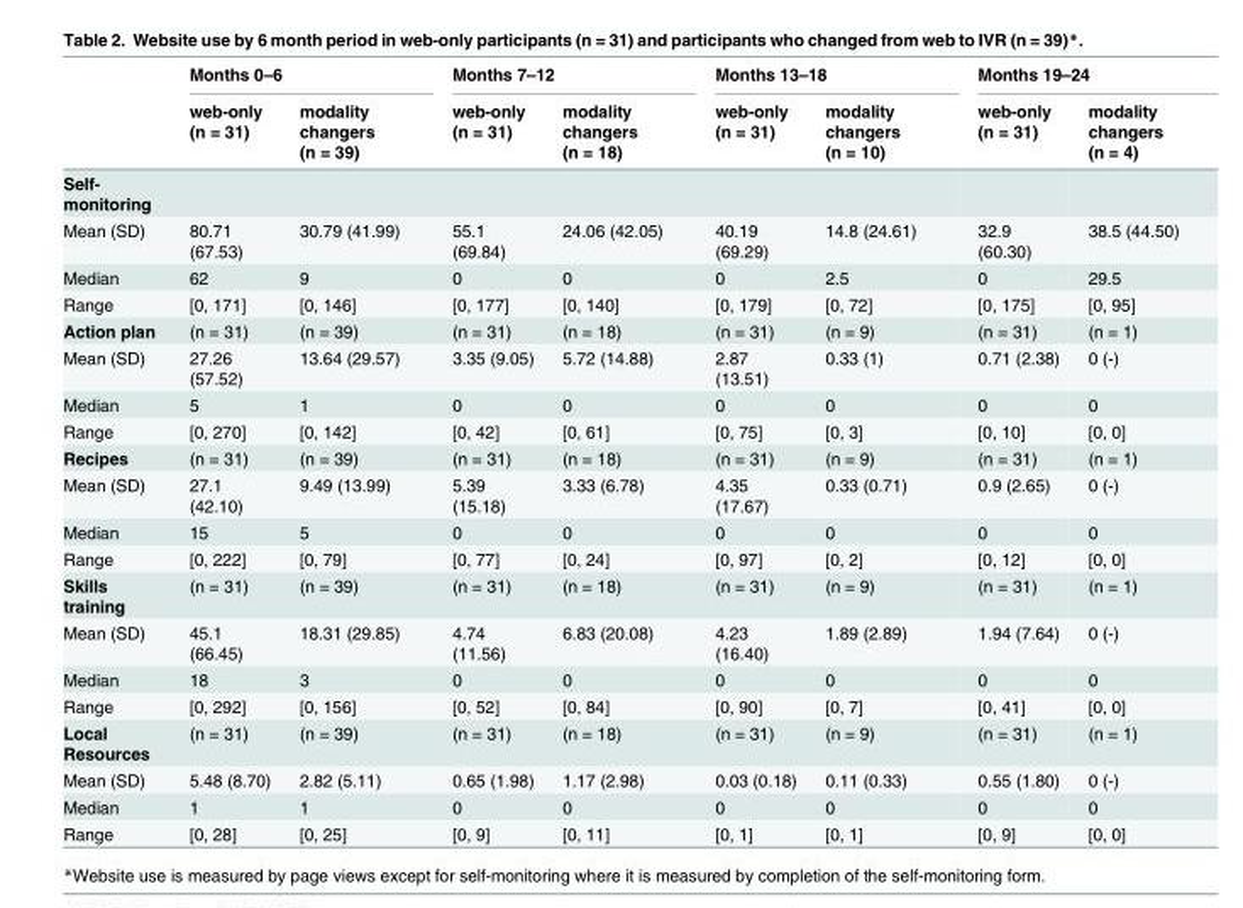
<table><thead><tr><td rowspan="2"></td><td colspan="2">Months 0–6</td><td colspan="2">Months 7–12</td><td colspan="2">Months 13–18</td><td colspan="2">Months 19–24</td></tr><tr><td>web-only (n = 31)</td><td>modality changers (n = 39)</td><td>web-only (n = 31)</td><td>modality changers (n = 18)</td><td>web-only (n = 31)</td><td>modality changers (n = 10)</td><td>web-only (n = 31)</td><td>modality changers (n = 4)</td></tr></thead><tbody><tr><td colspan="9">Self- monitoring</td></tr><tr><td>Mean (SD)</td><td>80.71 (67.53)</td><td>30.79 (41.99)</td><td>55.1 (69.84)</td><td>24.06 (42.05)</td><td>40.19 (69.29)</td><td>14.8 (24.61)</td><td>32.9 (60.30)</td><td>38.5 (44.50)</td></tr><tr><td>Median</td><td>62</td><td>9</td><td>0</td><td>0</td><td>0</td><td>2.5</td><td>0</td><td>29.5</td></tr><tr><td>Range</td><td>[0, 171]</td><td>[0, 146]</td><td>[0, 177]</td><td>[0, 140]</td><td>[0, 179]</td><td>[0, 72]</td><td>[0, 175]</td><td>[0, 95]</td></tr><tr><td>Action plan</td><td>(n = 31)</td><td>(n = 39)</td><td>(n = 31)</td><td>(n = 18)</td><td>(n = 31)</td><td>(n = 9)</td><td>(n = 31)</td><td>(n = 1)</td></tr><tr><td>Mean (SD)</td><td>27.26 (57.52)</td><td>13.64 (29.57)</td><td>3.35 (9.05)</td><td>5.72 (14.88)</td><td>2.87 (13.51)</td><td>0.33 (1)</td><td>0.71 (2.38)</td><td>0 (-)</td></tr><tr><td>Median</td><td>5</td><td>1</td><td>0</td><td>0</td><td>0</td><td>0</td><td>0</td><td>0</td></tr><tr><td>Range</td><td>[0, 270]</td><td>[0, 142]</td><td>[0, 42]</td><td>[0, 61]</td><td>[0, 75]</td><td>[0, 3]</td><td>[0, 10]</td><td>[0, 0]</td></tr><tr><td>Recipes</td><td>(n = 31)</td><td>(n = 39)</td><td>(n = 31)</td><td>(n = 18)</td><td>(n = 31)</td><td>(n = 9)</td><td>(n = 31)</td><td>(n = 1)</td></tr><tr><td>Mean (SD)</td><td>27.1 (42.10)</td><td>9.49 (13.99)</td><td>5.39 (15.18)</td><td>3.33 (6.78)</td><td>4.35 (17.67)</td><td>0.33 (0.71)</td><td>0.9 (2.65)</td><td>0 (-)</td></tr><tr><td>Median</td><td>15</td><td>5</td><td>0</td><td>0</td><td>0</td><td>0</td><td>0</td><td>0</td></tr><tr><td>Range</td><td>[0, 222]</td><td>[0, 79]</td><td>[0, 77]</td><td>[0, 24]</td><td>[0, 97]</td><td>[0, 2]</td><td>[0, 12]</td><td>[0, 0]</td></tr><tr><td>Skills training</td><td>(n = 31)</td><td>(n = 39)</td><td>(n = 31)</td><td>(n = 18)</td><td>(n = 31)</td><td>(n = 9)</td><td>(n = 31)</td><td>(n = 1)</td></tr><tr><td>Mean (SD)</td><td>45.1 (66.45)</td><td>18.31 (29.85)</td><td>4.74 (11.56)</td><td>6.83 (20.08)</td><td>4.23 (16.40)</td><td>1.89 (2.89)</td><td>1.94 (7.64)</td><td>0 (-)</td></tr><tr><td>Median</td><td>18</td><td>3</td><td>0</td><td>0</td><td>0</td><td>0</td><td>0</td><td>0</td></tr><tr><td>Range</td><td>[0, 292]</td><td>[0, 156]</td><td>[0, 52]</td><td>[0, 84]</td><td>[0, 90]</td><td>[0, 7]</td><td>[0, 41]</td><td>[0, 0]</td></tr><tr><td>Local Resources</td><td>(n = 31)</td><td>(n = 39)</td><td>(n = 31)</td><td>(n = 18)</td><td>(n = 31)</td><td>(n = 9)</td><td>(n = 31)</td><td>(n = 1)</td></tr><tr><td>Mean (SD)</td><td>5.48 (8.70)</td><td>2.82 (5.11)</td><td>0.65 (1.98)</td><td>1.17 (2.98)</td><td>0.03 (0.18)</td><td>0.11 (0.33)</td><td>0.55 (1.80)</td><td>0 (-)</td></tr><tr><td>Median</td><td>1</td><td>1</td><td>0</td><td>0</td><td>0</td><td>0</td><td>0</td><td>0</td></tr><tr><td>Range</td><td>[0, 28]</td><td>[0, 25]</td><td>[0, 9]</td><td>[0, 11]</td><td>[0, 1]</td><td>[0, 1]</td><td>[0, 9]</td><td>[0, 0]</td></tr></tbody></table>